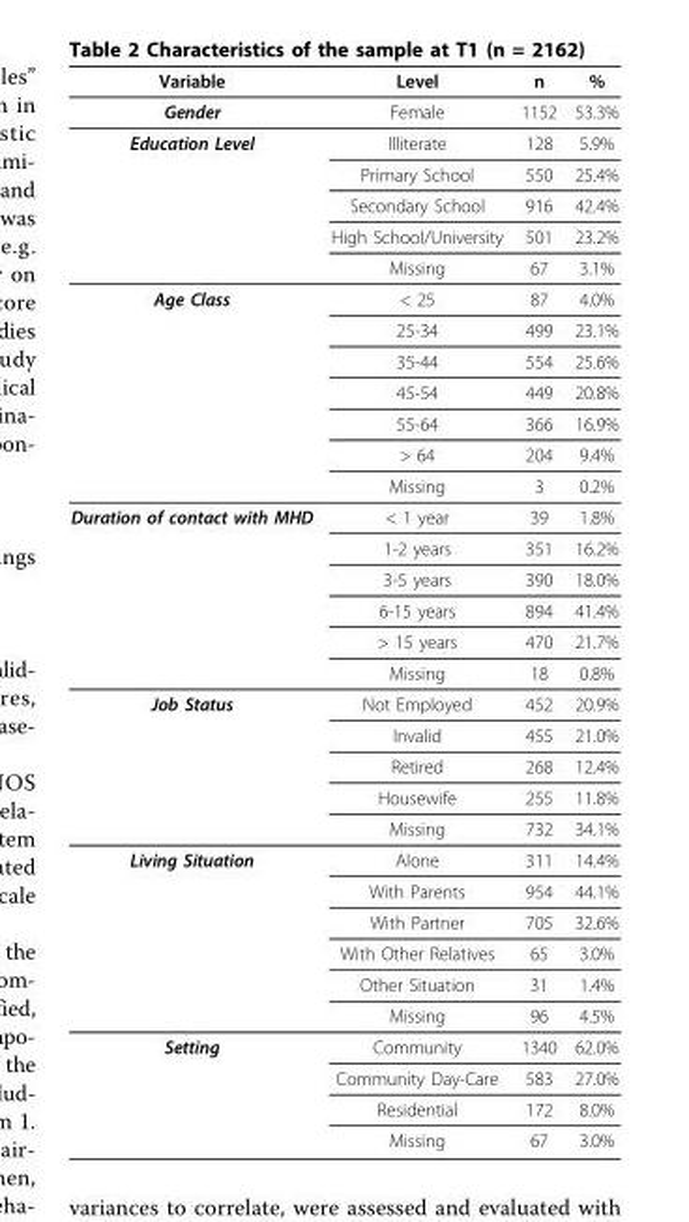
<table><thead><tr><td>Variable</td><td>Level</td><td>n</td><td>%</td></tr></thead><tbody><tr><td>Gender</td><td>Female</td><td>1152</td><td>53.3%</td></tr><tr><td rowspan="5">Education Level</td><td>Illiterate</td><td>128</td><td>5.9%</td></tr><tr><td>Primary School</td><td>550</td><td>25.4%</td></tr><tr><td>Secondary School</td><td>916</td><td>42.4%</td></tr><tr><td>High School/University</td><td>501</td><td>23.2%</td></tr><tr><td>Missing</td><td>67</td><td>3.1%</td></tr><tr><td rowspan="7">Age Class</td><td>&lt; 25</td><td>87</td><td>4.0%</td></tr><tr><td>25-34</td><td>499</td><td>23.1%</td></tr><tr><td>35-44</td><td>554</td><td>25.6%</td></tr><tr><td>45-54</td><td>449</td><td>20.8%</td></tr><tr><td>55-64</td><td>366</td><td>16.9%</td></tr><tr><td>&gt; 64</td><td>204</td><td>9.4%</td></tr><tr><td>Missing</td><td>3</td><td>0.2%</td></tr><tr><td rowspan="6">Duration of contact with MHD</td><td>&lt; 1 year</td><td>39</td><td>1.8%</td></tr><tr><td>1-2 years</td><td>351</td><td>16.2%</td></tr><tr><td>3-5 years</td><td>390</td><td>18.0%</td></tr><tr><td>6-15 years</td><td>894</td><td>41.4%</td></tr><tr><td>&gt; 15 years</td><td>470</td><td>21.7%</td></tr><tr><td>Missing</td><td>18</td><td>0.8%</td></tr><tr><td rowspan="5">Job Status</td><td>Not Employed</td><td>452</td><td>20.9%</td></tr><tr><td>Invalid</td><td>455</td><td>21.0%</td></tr><tr><td>Retired</td><td>268</td><td>12.4%</td></tr><tr><td>Housewife</td><td>255</td><td>11.8%</td></tr><tr><td>Missing</td><td>732</td><td>34.1%</td></tr><tr><td rowspan="6">Living Situation</td><td>Alone</td><td>311</td><td>14.4%</td></tr><tr><td>With Parents</td><td>954</td><td>44.1%</td></tr><tr><td>With Partner</td><td>705</td><td>32.6%</td></tr><tr><td>With Other Relatives</td><td>65</td><td>3.0%</td></tr><tr><td>Other Situation</td><td>31</td><td>1.4%</td></tr><tr><td>Missing</td><td>96</td><td>4.5%</td></tr><tr><td rowspan="4">Setting</td><td>Community</td><td>1340</td><td>62.0%</td></tr><tr><td>Community Day-Care</td><td>583</td><td>27.0%</td></tr><tr><td>Residential</td><td>172</td><td>8.0%</td></tr><tr><td>Missing</td><td>67</td><td>3.0%</td></tr></tbody></table>